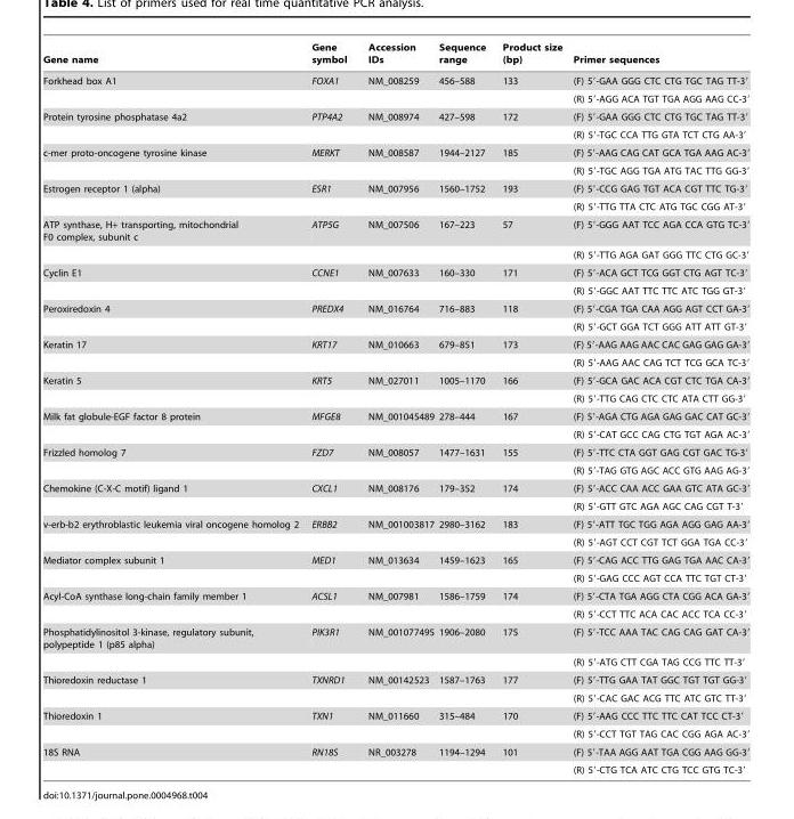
<table><thead><tr><td>Gene name</td><td>Gene symbol</td><td>Accession IDs</td><td>Sequence range</td><td>Product size (bp)</td><td>Primer sequences</td></tr></thead><tbody><tr><td rowspan="2">Forkhead box A1</td><td>FOXA1</td><td>NM_008259</td><td>456–588</td><td>133</td><td>(F) 5′-GAA GGG CTC CTG TGC TAG TT-3′</td></tr><tr><td></td><td></td><td></td><td></td><td>(R) 5′-AGG ACA TGT TGA AGG AAG CC-3′</td></tr><tr><td rowspan="2">Protein tyrosine phosphatase 4a2</td><td>PTP4A2</td><td>NM_008974</td><td>427–598</td><td>172</td><td>(F) 5′-GAA GGG CTC CTG TGC TAG TT-3′</td></tr><tr><td></td><td></td><td></td><td></td><td>(R) 5′-TGC CCA TTG GTA TCT CTG AA-3′</td></tr><tr><td rowspan="2">c-mer proto-oncogene tyrosine kinase</td><td>MERKT</td><td>NM_008587</td><td>1944–2127</td><td>185</td><td>(F) 5′-AAG CAG CAT GCA TGA AAG AC-3′</td></tr><tr><td></td><td></td><td></td><td></td><td>(R) 5′-TGC AGG TGA ATG TAC TTG GG-3′</td></tr><tr><td rowspan="2">Estrogen receptor 1 (alpha)</td><td>ESR1</td><td>NM_007956</td><td>1560–1752</td><td>193</td><td>(F) 5′-CCG GAG TGT ACA CGT TTC TG-3′</td></tr><tr><td></td><td></td><td></td><td></td><td>(R) 5′-TTG TTA CTC ATG TGC CGG AT-3′</td></tr><tr><td rowspan="2">ATP synthase, H+ transporting, mitochondrial F0 complex, subunit c</td><td>ATP5G</td><td>NM_007506</td><td>167–223</td><td>57</td><td>(F) 5′-GGG AAT TCC AGA CCA GTG TC-3′</td></tr><tr><td></td><td></td><td></td><td></td><td>(R) 5′-TTG AGA GAT GGG TTC CTG GC-3′</td></tr><tr><td rowspan="2">Cyclin E1</td><td>CCNE1</td><td>NM_007633</td><td>160–330</td><td>171</td><td>(F) 5′-ACA GCT TCG GGT CTG AGT TC-3′</td></tr><tr><td></td><td></td><td></td><td></td><td>(R) 5′-GGC AAT TTC TTC ATC TGG GT-3′</td></tr><tr><td rowspan="2">Peroxiredoxin 4</td><td>PREDX4</td><td>NM_016764</td><td>716–883</td><td>118</td><td>(F) 5′-CGA TGA CAA AGG AGT CCT GA-3′</td></tr><tr><td></td><td></td><td></td><td></td><td>(R) 5′-GCT GGA TCT GGG ATT ATT GT-3′</td></tr><tr><td rowspan="2">Keratin 17</td><td>KRT17</td><td>NM_010663</td><td>679–851</td><td>173</td><td>(F) 5′-AAG AAG AAC CAC GAG GAG GA-3′</td></tr><tr><td></td><td></td><td></td><td></td><td>(R) 5′-AAG AAC CAG TCT TCG GCA TC-3′</td></tr><tr><td rowspan="2">Keratin 5</td><td>KRT5</td><td>NM_027011</td><td>1005–1170</td><td>166</td><td>(F) 5′-GCA GAC ACA CGT CTC TGA CA-3′</td></tr><tr><td></td><td></td><td></td><td></td><td>(R) 5′-TTG CAG CTC CTC ATA CTT GG-3′</td></tr><tr><td rowspan="2">Milk fat globule-EGF factor 8 protein</td><td>MFGE8</td><td>NM_001045489</td><td>278–444</td><td>167</td><td>(F) 5′-AGA CTG AGA GAG GAC CAT GC-3′</td></tr><tr><td></td><td></td><td></td><td></td><td>(R) 5′-CAT GCC CAG CTG TGT AGA AC-3′</td></tr><tr><td rowspan="2">Frizzled homolog 7</td><td>FZD7</td><td>NM_008057</td><td>1477–1631</td><td>155</td><td>(F) 5′-TTC CTA GGT GAG CGT GAC TG-3′</td></tr><tr><td></td><td></td><td></td><td></td><td>(R) 5′-TAG GTG AGC ACC GTG AAG AG-3′</td></tr><tr><td rowspan="2">Chemokine (C-X-C motif) ligand 1</td><td>CXCL1</td><td>NM_008176</td><td>179–352</td><td>174</td><td>(F) 5′-ACC CAA ACC GAA GTC ATA GC-3′</td></tr><tr><td></td><td></td><td></td><td></td><td>(R) 5′-GTT GTC AGA AGC CAG CGT T-3′</td></tr><tr><td rowspan="2">v-erb-b2 erythroblastic leukemia viral oncogene homolog 2</td><td>ERBB2</td><td>NM_001003817</td><td>2980–3162</td><td>183</td><td>(F) 5′-ATT TGC TGG AGA AGG GAG AA-3′</td></tr><tr><td></td><td></td><td></td><td></td><td>(R) 5′-AGT CCT CGT TCT GGA TGA CC-3′</td></tr><tr><td rowspan="2">Mediator complex subunit 1</td><td>MED1</td><td>NM_013634</td><td>1459–1623</td><td>165</td><td>(F) 5′-CAG ACC TTG GAG TGA AAC CA-3′</td></tr><tr><td></td><td></td><td></td><td></td><td>(R) 5′-GAG CCC AGT CCA TTC TGT CT-3′</td></tr><tr><td rowspan="2">Acyl-CoA synthase long-chain family member 1</td><td>ACSL1</td><td>NM_007981</td><td>1586–1759</td><td>174</td><td>(F) 5′-CTA TGA AGG CTA CGG ACA GA-3′</td></tr><tr><td></td><td></td><td></td><td></td><td>(R) 5′-CCT TTC ACA CAC ACC TCA CC-3′</td></tr><tr><td rowspan="2">Phosphatidylinositol 3-kinase, regulatory subunit, polypeptide 1 (p85 alpha)</td><td>PIK3R1</td><td>NM_001077495</td><td>1906–2080</td><td>175</td><td>(F) 5′-TCC AAA TAC CAG CAG GAT CA-3′</td></tr><tr><td></td><td></td><td></td><td></td><td>(R) 5′-ATG CTT CGA TAG CCG TTC TT-3′</td></tr><tr><td rowspan="2">Thioredoxin reductase 1</td><td>TXNRD1</td><td>NM_00142523</td><td>1587–1763</td><td>177</td><td>(F) 5′-TTG GAA TAT GGC TGT TGT GG-3′</td></tr><tr><td></td><td></td><td></td><td></td><td>(R) 5′-CAC GAC ACG TTC ATC GTC TT-3′</td></tr><tr><td rowspan="2">Thioredoxin 1</td><td>TXN1</td><td>NM_011660</td><td>315–484</td><td>170</td><td>(F) 5′-AAG CCC TTC TTC CAT TCC CT-3′</td></tr><tr><td></td><td></td><td></td><td></td><td>(R) 5′-CCT TGT TAG CAC CGG AGA AC-3′</td></tr><tr><td rowspan="2">18S RNA</td><td>RN18S</td><td>NR_003278</td><td>1194–1294</td><td>101</td><td>(F) 5′-TAA AGG AAT TGA CGG AAG GG-3′</td></tr><tr><td></td><td></td><td></td><td></td><td>(R) 5′-CTG TCA ATC CTG TCC GTG TC-3′</td></tr></tbody></table>